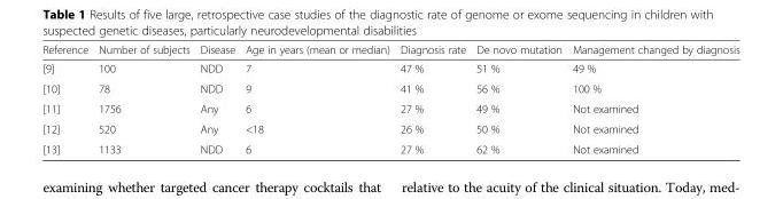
<table><thead><tr><td>Reference</td><td>Number of subjects</td><td>Disease</td><td>Age in years (mean or median)</td><td>Diagnosis rate</td><td>De novo mutation</td><td>Management changed by diagnosis</td></tr></thead><tbody><tr><td>[9]</td><td>100</td><td>NDD</td><td>7</td><td>47 %</td><td>51 %</td><td>49 %</td></tr><tr><td>[10]</td><td>78</td><td>NDD</td><td>9</td><td>41 %</td><td>56 %</td><td>100 %</td></tr><tr><td>[11]</td><td>1756</td><td>Any</td><td>6</td><td>27 %</td><td>49 %</td><td>Not examined</td></tr><tr><td>[12]</td><td>520</td><td>Any</td><td>&lt;18</td><td>26 %</td><td>50 %</td><td>Not examined</td></tr><tr><td>[13]</td><td>1133</td><td>NDD</td><td>6</td><td>27 %</td><td>62 %</td><td>Not examined</td></tr></tbody></table>